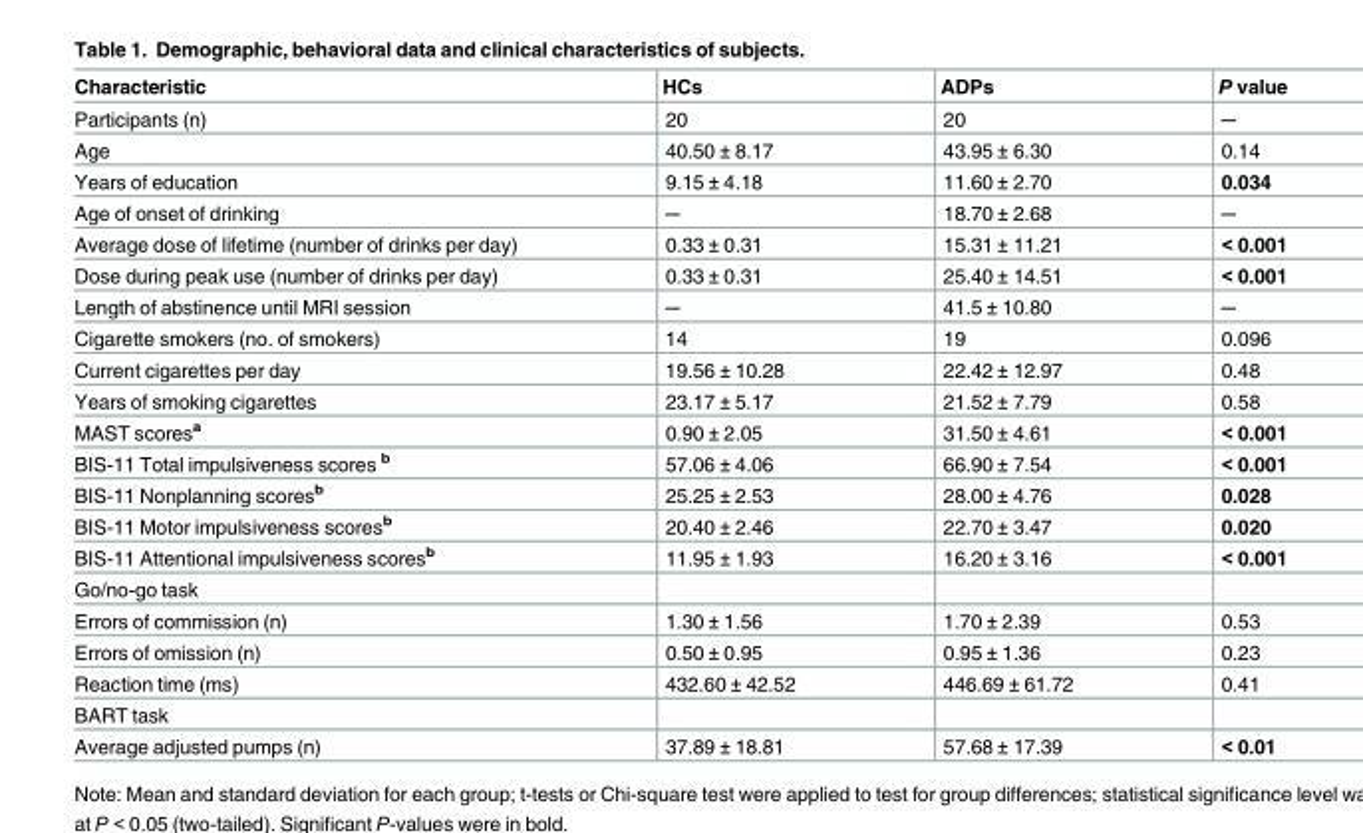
<table><thead><tr><td>Characteristic</td><td>HCs</td><td>ADPs</td><td>P value</td></tr></thead><tbody><tr><td>Participants (n)</td><td>20</td><td>20</td><td>─</td></tr><tr><td>Age</td><td>40.50 ± 8.17</td><td>43.95 ± 6.30</td><td>0.14</td></tr><tr><td>Years of education</td><td>9.15 ± 4.18</td><td>11.60 ± 2.70</td><td>0.034</td></tr><tr><td>Age of onset of drinking</td><td>─</td><td>18.70 ± 2.68</td><td>─</td></tr><tr><td>Average dose of lifetime (number of drinks per day)</td><td>0.33 ± 0.31</td><td>15.31 ± 11.21</td><td>&lt; 0.001</td></tr><tr><td>Dose during peak use (number of drinks per day)</td><td>0.33 ± 0.31</td><td>25.40 ± 14.51</td><td>&lt; 0.001</td></tr><tr><td>Length of abstinence until MRI session</td><td>─</td><td>41.5 ± 10.80</td><td>─</td></tr><tr><td>Cigarette smokers (no. of smokers)</td><td>14</td><td>19</td><td>0.096</td></tr><tr><td>Current cigarettes per day</td><td>19.56 ± 10.28</td><td>22.42 ± 12.97</td><td>0.48</td></tr><tr><td>Years of smoking cigarettes</td><td>23.17 ± 5.17</td><td>21.52 ± 7.79</td><td>0.58</td></tr><tr><td>MAST scores<sup>a</sup></td><td>0.90 ± 2.05</td><td>31.50 ± 4.61</td><td>&lt; 0.001</td></tr><tr><td>BIS-11 Total impulsiveness scores <sup>b</sup></td><td>57.06 ± 4.06</td><td>66.90 ± 7.54</td><td>&lt; 0.001</td></tr><tr><td>BIS-11 Nonplanning scores<sup>b</sup></td><td>25.25 ± 2.53</td><td>28.00 ± 4.76</td><td>0.028</td></tr><tr><td>BIS-11 Motor impulsiveness scores<sup>b</sup></td><td>20.40 ± 2.46</td><td>22.70 ± 3.47</td><td>0.020</td></tr><tr><td>BIS-11 Attentional impulsiveness scores<sup>b</sup></td><td>11.95 ± 1.93</td><td>16.20 ± 3.16</td><td>&lt; 0.001</td></tr><tr><td colspan="4">Go/no-go task</td></tr><tr><td>Errors of commission (n)</td><td>1.30 ± 1.56</td><td>1.70 ± 2.39</td><td>0.53</td></tr><tr><td>Errors of omission (n)</td><td>0.50 ± 0.95</td><td>0.95 ± 1.36</td><td>0.23</td></tr><tr><td>Reaction time (ms)</td><td>432.60 ± 42.52</td><td>446.69 ± 61.72</td><td>0.41</td></tr><tr><td colspan="4">BART task</td></tr><tr><td>Average adjusted pumps (n)</td><td>37.89 ± 18.81</td><td>57.68 ± 17.39</td><td>&lt; 0.01</td></tr></tbody></table>